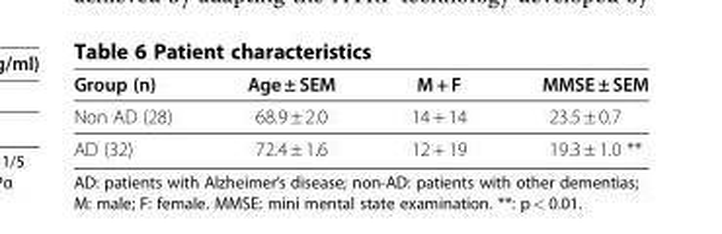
<table><thead><tr><td>Group (n)</td><td>Age ± SEM</td><td>M + F</td><td>MMSE ± SEM</td></tr></thead><tbody><tr><td>Non AD (28)</td><td>68.9 ± 2.0</td><td>14 + 14</td><td>23.5 ± 0.7</td></tr><tr><td>AD (32)</td><td>72.4 ± 1.6</td><td>12 + 19</td><td>19.3 ± 1.0 **</td></tr></tbody></table>